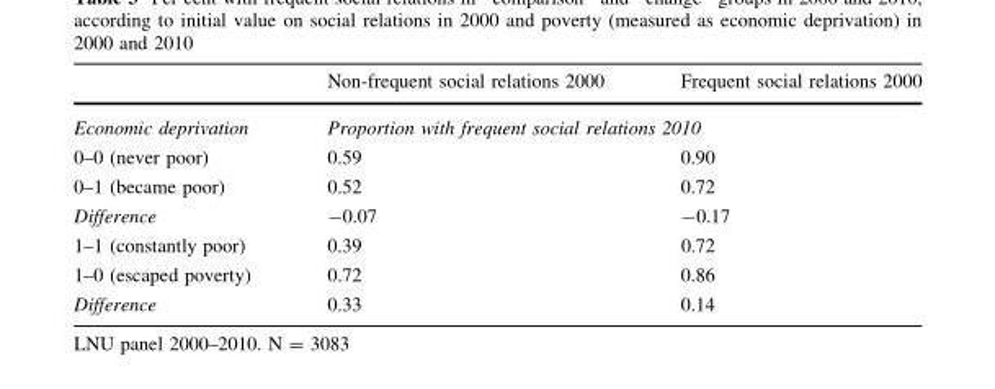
<table><thead><tr><td></td><td>Non-frequent social relations 2000</td><td>Frequent social relations 2000</td></tr></thead><tbody><tr><td>Economic deprivation</td><td colspan="2">Proportion with frequent social relations 2010</td></tr><tr><td>0–0 (never poor)</td><td>0.59</td><td>0.90</td></tr><tr><td>0–1 (became poor)</td><td>0.52</td><td>0.72</td></tr><tr><td>Difference</td><td>-0.07</td><td>-0.17</td></tr><tr><td>1–1 (constantly poor)</td><td>0.39</td><td>0.72</td></tr><tr><td>1–0 (escaped poverty)</td><td>0.72</td><td>0.86</td></tr><tr><td>Difference</td><td>0.33</td><td>0.14</td></tr></tbody></table>